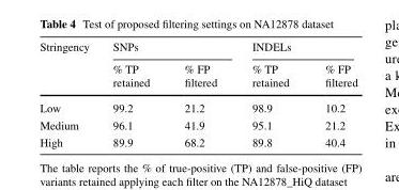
<table><thead><tr><td rowspan="2">Stringency</td><td colspan="2">SNPs</td><td colspan="2">INDELs</td></tr><tr><td>% TP retained</td><td>% FP filtered</td><td>% TP retained</td><td>% FP filtered</td></tr></thead><tbody><tr><td>Low</td><td>99.2</td><td>21.2</td><td>98.9</td><td>10.2</td></tr><tr><td>Medium</td><td>96.1</td><td>41.9</td><td>95.1</td><td>21.2</td></tr><tr><td>High</td><td>89.9</td><td>68.2</td><td>89.8</td><td>40.4</td></tr></tbody></table>